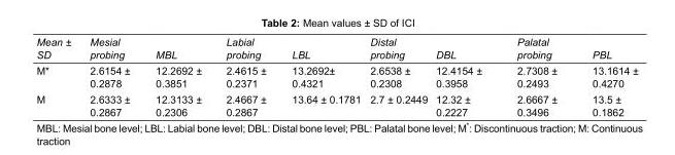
<table><tbody><tr><td>Mean ± SD</td><td>Mesial probing</td><td>MBL</td><td>Labial probing</td><td>LBL</td><td>Distal probing</td><td>DBL</td><td>Palatal probing</td><td>PBL</td></tr><tr><td rowspan="2">M*</td><td>2.6154 ±</td><td>12.2692 ±</td><td>2.4615 ±</td><td>13.2692±</td><td>2.6538 ±</td><td>12.4154 ±</td><td>2.7308 ±</td><td>13.1614 ±</td></tr><tr><td>0.2878</td><td>0.3851</td><td>0.2371</td><td>0.4321</td><td>0.2308</td><td>0.3958</td><td>0.2493</td><td>0.4270</td></tr><tr><td rowspan="2">M</td><td>2.6333 ±</td><td>12.3133 ±</td><td>2.4667 ±</td><td>13.64 ± 0.1781</td><td>2.7 ± 0.2449</td><td>12.32 ±</td><td>2.6667 ±</td><td>13.5 ±</td></tr><tr><td>0.2867</td><td>0.2306</td><td>0.2867</td><td></td><td></td><td>0.2227</td><td>0.3496</td><td>0.1862</td></tr></tbody></table>